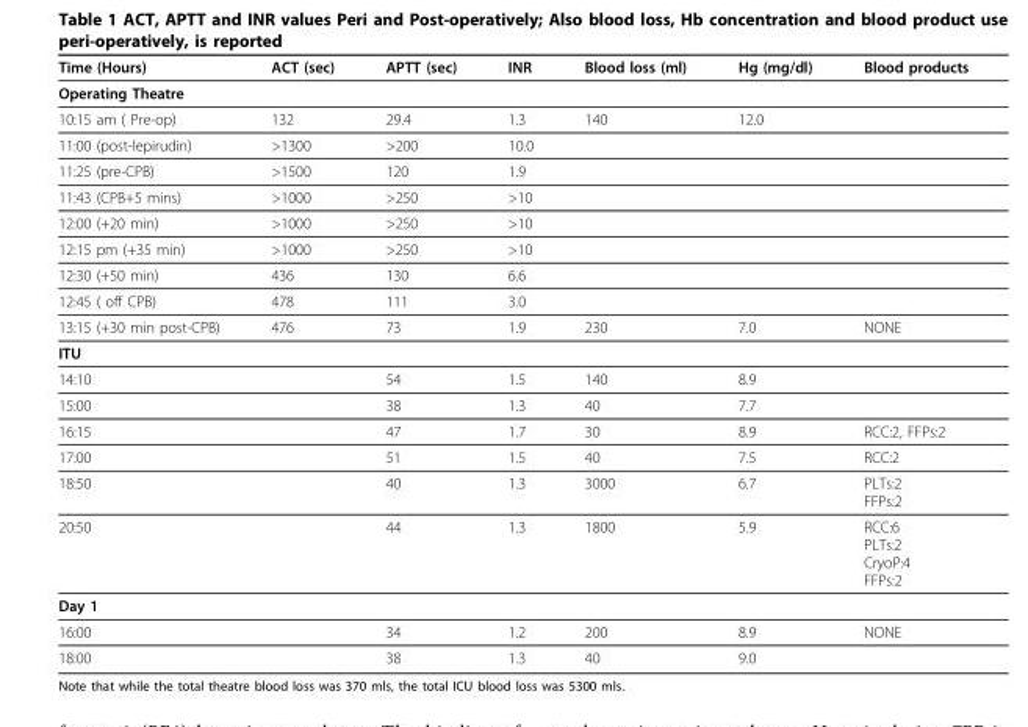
<table><thead><tr><td>Time (Hours)</td><td>ACT (sec)</td><td>APTT (sec)</td><td>INR</td><td>Blood loss (ml)</td><td>Hg (mg/dl)</td><td>Blood products</td></tr></thead><tbody><tr><td colspan="7">Operating Theatre</td></tr><tr><td>10:15 am ( Pre-op)</td><td>132</td><td>29.4</td><td>1.3</td><td>140</td><td>12.0</td><td></td></tr><tr><td>11:00 (post-lepirudin)</td><td>&gt;1300</td><td>&gt;200</td><td>10.0</td><td></td><td></td><td></td></tr><tr><td>11:25 (pre-CPB)</td><td>&gt;1500</td><td>120</td><td>1.9</td><td></td><td></td><td></td></tr><tr><td>11:43 (CPB+5 mins)</td><td>&gt;1000</td><td>&gt;250</td><td>&gt;10</td><td></td><td></td><td></td></tr><tr><td>12:00 (+20 min)</td><td>&gt;1000</td><td>&gt;250</td><td>&gt;10</td><td></td><td></td><td></td></tr><tr><td>12:15 pm (+35 min)</td><td>&gt;1000</td><td>&gt;250</td><td>&gt;10</td><td></td><td></td><td></td></tr><tr><td>12:30 (+50 min)</td><td>436</td><td>130</td><td>6.6</td><td></td><td></td><td></td></tr><tr><td>12:45 ( off CPB)</td><td>478</td><td>111</td><td>3.0</td><td></td><td></td><td></td></tr><tr><td>13:15 (+30 min post-CPB)</td><td>476</td><td>73</td><td>1.9</td><td>230</td><td>7.0</td><td>NONE</td></tr><tr><td colspan="7">ITU</td></tr><tr><td>14:10</td><td></td><td>54</td><td>1.5</td><td>140</td><td>8.9</td><td></td></tr><tr><td>15:00</td><td></td><td>38</td><td>1.3</td><td>40</td><td>7.7</td><td></td></tr><tr><td>16:15</td><td></td><td>47</td><td>1.7</td><td>30</td><td>8.9</td><td>RCC:2, FFPs:2</td></tr><tr><td>17:00</td><td></td><td>51</td><td>1.5</td><td>40</td><td>7.5</td><td>RCC:2</td></tr><tr><td>18:50</td><td></td><td>40</td><td>1.3</td><td>3000</td><td>6.7</td><td>PLTs:2 FFPs:2</td></tr><tr><td>20:50</td><td></td><td>44</td><td>1.3</td><td>1800</td><td>5.9</td><td>RCC:6 PLTs:2 CryoP:4 FFPs:2</td></tr><tr><td colspan="7">Day 1</td></tr><tr><td>16:00</td><td></td><td>34</td><td>1.2</td><td>200</td><td>8.9</td><td>NONE</td></tr><tr><td>18:00</td><td></td><td>38</td><td>1.3</td><td>40</td><td>9.0</td><td></td></tr></tbody></table>